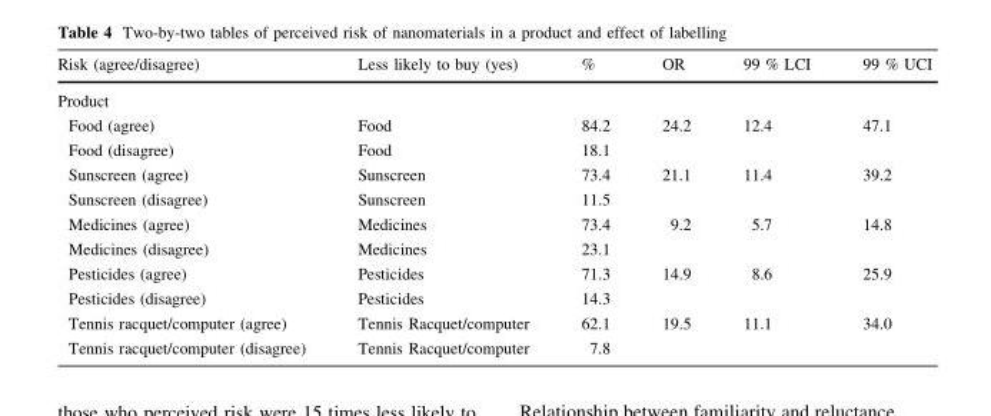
<table><thead><tr><td>Risk (agree/disagree)</td><td>Less likely to buy (yes)</td><td>%</td><td>OR</td><td>99 % LCI</td><td>99 % UCI</td></tr></thead><tbody><tr><td colspan="6">Product</td></tr><tr><td>Food (agree)</td><td>Food</td><td>84.2</td><td rowspan="2">24.2</td><td rowspan="2">12.4</td><td rowspan="2">47.1</td></tr><tr><td>Food (disagree)</td><td>Food</td><td>18.1</td></tr><tr><td>Sunscreen (agree)</td><td>Sunscreen</td><td>73.4</td><td rowspan="2">21.1</td><td rowspan="2">11.4</td><td rowspan="2">39.2</td></tr><tr><td>Sunscreen (disagree)</td><td>Sunscreen</td><td>11.5</td></tr><tr><td>Medicines (agree)</td><td>Medicines</td><td>73.4</td><td rowspan="2">9.2</td><td rowspan="2">5.7</td><td rowspan="2">14.8</td></tr><tr><td>Medicines (disagree)</td><td>Medicines</td><td>23.1</td></tr><tr><td>Pesticides (agree)</td><td>Pesticides</td><td>71.3</td><td rowspan="2">14.9</td><td rowspan="2">8.6</td><td rowspan="2">25.9</td></tr><tr><td>Pesticides (disagree)</td><td>Pesticides</td><td>14.3</td></tr><tr><td>Tennis racquet/computer (agree)</td><td>Tennis Racquet/computer</td><td>62.1</td><td rowspan="2">19.5</td><td rowspan="2">11.1</td><td rowspan="2">34.0</td></tr><tr><td>Tennis racquet/computer (disagree)</td><td>Tennis Racquet/computer</td><td>7.8</td></tr></tbody></table>